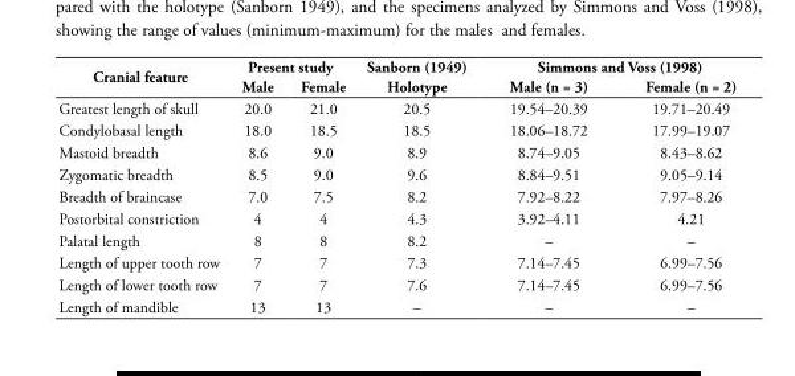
<table><thead><tr><td rowspan="2">Cranial feature</td><td colspan="2">Present study</td><td rowspan="2">Sanborn (1949) Holotype</td><td colspan="2">Simmons and Voss (1998)</td></tr><tr><td>Male</td><td>Female</td><td>Male (n = 3)</td><td>Female (n = 2)</td></tr></thead><tbody><tr><td>Greatest length of skull</td><td>20.0</td><td>21.0</td><td>20.5</td><td>19.54–20.39</td><td>19.71–20.49</td></tr><tr><td>Condylobasal length</td><td>18.0</td><td>18.5</td><td>18.5</td><td>18.06–18.72</td><td>17.99–19.07</td></tr><tr><td>Mastoid breadth</td><td>8.6</td><td>9.0</td><td>8.9</td><td>8.74–9.05</td><td>8.43–8.62</td></tr><tr><td>Zygomatic breadth</td><td>8.5</td><td>9.0</td><td>9.6</td><td>8.84–9.51</td><td>9.05–9.14</td></tr><tr><td>Breadth of braincase</td><td>7.0</td><td>7.5</td><td>8.2</td><td>7.92–8.22</td><td>7.97–8.26</td></tr><tr><td>Postorbital constriction</td><td>4</td><td>4</td><td>4.3</td><td>3.92–4.11</td><td>4.21</td></tr><tr><td>Palatal length</td><td>8</td><td>8</td><td>8.2</td><td>–</td><td>–</td></tr><tr><td>Length of upper tooth row</td><td>7</td><td>7</td><td>7.3</td><td>7.14–7.45</td><td>6.99–7.56</td></tr><tr><td>Length of lower tooth row</td><td>7</td><td>7</td><td>7.6</td><td>7.14–7.45</td><td>6.99–7.56</td></tr><tr><td>Length of mandible</td><td>13</td><td>13</td><td>–</td><td>–</td><td>–</td></tr></tbody></table>